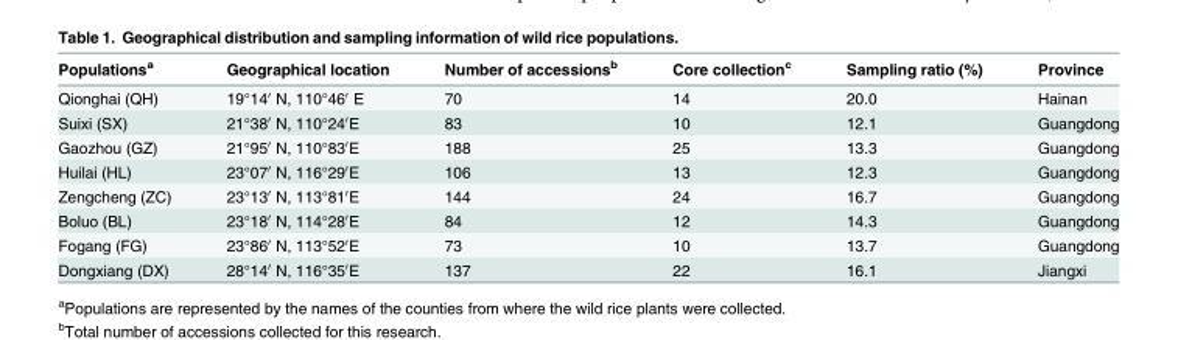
<table><thead><tr><td>Populations<sup>a</sup></td><td>Geographical location</td><td>Number of accessions<sup>b</sup></td><td>Core collection<sup>c</sup></td><td>Sampling ratio (%)</td><td>Province</td></tr></thead><tbody><tr><td>Qionghai (QH)</td><td>19°14′ N, 110°46′ E</td><td>70</td><td>14</td><td>20.0</td><td>Hainan</td></tr><tr><td>Suixi (SX)</td><td>21°38′ N, 110°24′E</td><td>83</td><td>10</td><td>12.1</td><td>Guangdong</td></tr><tr><td>Gaozhou (GZ)</td><td>21°95′ N, 110°83′E</td><td>188</td><td>25</td><td>13.3</td><td>Guangdong</td></tr><tr><td>Huilai (HL)</td><td>23°07′ N, 116°29′E</td><td>106</td><td>13</td><td>12.3</td><td>Guangdong</td></tr><tr><td>Zengcheng (ZC)</td><td>23°13′ N, 113°81′E</td><td>144</td><td>24</td><td>16.7</td><td>Guangdong</td></tr><tr><td>Boluo (BL)</td><td>23°18′ N, 114°28′E</td><td>84</td><td>12</td><td>14.3</td><td>Guangdong</td></tr><tr><td>Fogang (FG)</td><td>23°86′ N, 113°52′E</td><td>73</td><td>10</td><td>13.7</td><td>Guangdong</td></tr><tr><td>Dongxiang (DX)</td><td>28°14′ N, 116°35′E</td><td>137</td><td>22</td><td>16.1</td><td>Jiangxi</td></tr></tbody></table>